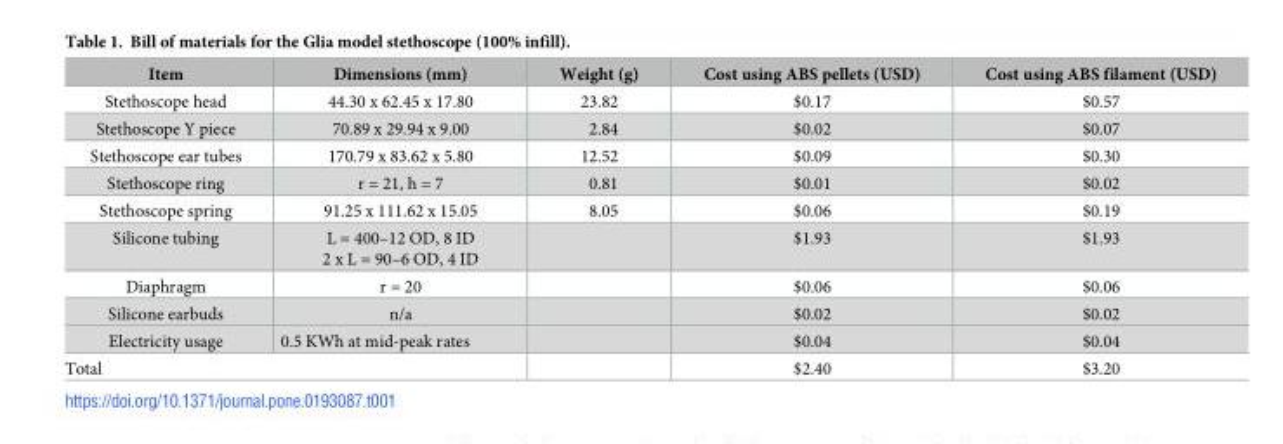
<table><thead><tr><td>Item</td><td>Dimensions (mm)</td><td>Weight (g)</td><td>Cost using ABS pellets (USD)</td><td>Cost using ABS filament (USD)</td></tr></thead><tbody><tr><td>Stethoscope head</td><td>44.30 x 62.45 x 17.80</td><td>23.82</td><td>$0.17</td><td>$0.57</td></tr><tr><td>Stethoscope Y piece</td><td>70.89 x 29.94 x 9.00</td><td>2.84</td><td>$0.02</td><td>$0.07</td></tr><tr><td>Stethoscope ear tubes</td><td>170.79 x 83.62 x 5.80</td><td>12.52</td><td>$0.09</td><td>$0.30</td></tr><tr><td>Stethoscope ring</td><td>r = 21, h = 7</td><td>0.81</td><td>$0.01</td><td>$0.02</td></tr><tr><td>Stethoscope spring</td><td>91.25 x 111.62 x 15.05</td><td>8.05</td><td>$0.06</td><td>$0.19</td></tr><tr><td>Silicone tubing</td><td>L = 400–12 OD, 8 ID 2 x L = 90–6 OD, 4 ID</td><td></td><td>$1.93</td><td>$1.93</td></tr><tr><td>Diaphragm</td><td>r = 20</td><td></td><td>$0.06</td><td>$0.06</td></tr><tr><td>Silicone earbuds</td><td>n/a</td><td></td><td>$0.02</td><td>$0.02</td></tr><tr><td>Electricity usage</td><td>0.5 KWh at mid-peak rates</td><td></td><td>$0.04</td><td>$0.04</td></tr><tr><td colspan="2">Total</td><td></td><td>$2.40</td><td>$3.20</td></tr></tbody></table>